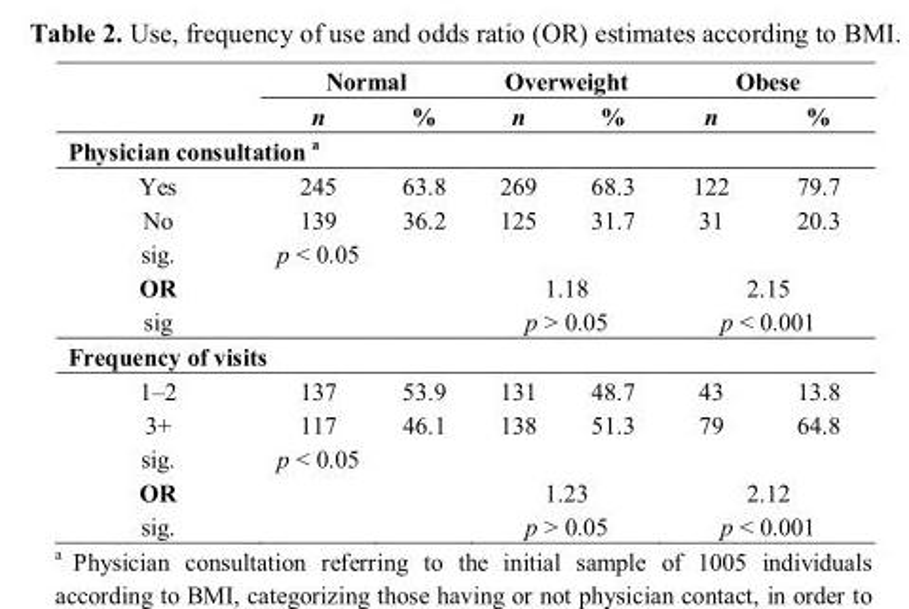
<table><thead><tr><td rowspan="2"></td><td colspan="2">Normal</td><td colspan="2">Overweight</td><td colspan="2">Obese</td></tr><tr><td>n</td><td>%</td><td>n</td><td>%</td><td>n</td><td>%</td></tr></thead><tbody><tr><td colspan="7">Physician consultation <sup>a</sup></td></tr><tr><td>Yes</td><td>245</td><td>63.8</td><td>269</td><td>68.3</td><td>122</td><td>79.7</td></tr><tr><td>No</td><td>139</td><td>36.2</td><td>125</td><td>31.7</td><td>31</td><td>20.3</td></tr><tr><td>sig.</td><td>p &lt; 0.05</td><td></td><td></td><td></td><td></td><td></td></tr><tr><td>OR</td><td></td><td></td><td colspan="2">1.18</td><td colspan="2">2.15</td></tr><tr><td>sig</td><td></td><td></td><td colspan="2">p &gt; 0.05</td><td colspan="2">p &lt; 0.001</td></tr><tr><td colspan="7">Frequency of visits</td></tr><tr><td>1–2</td><td>137</td><td>53.9</td><td>131</td><td>48.7</td><td>43</td><td>13.8</td></tr><tr><td>3+</td><td>117</td><td>46.1</td><td>138</td><td>51.3</td><td>79</td><td>64.8</td></tr><tr><td>sig.</td><td>p &lt; 0.05</td><td></td><td></td><td></td><td></td><td></td></tr><tr><td>OR</td><td></td><td></td><td colspan="2">1.23</td><td colspan="2">2.12</td></tr><tr><td>sig.</td><td></td><td></td><td colspan="2">p &gt; 0.05</td><td colspan="2">p &lt; 0.001</td></tr></tbody></table>